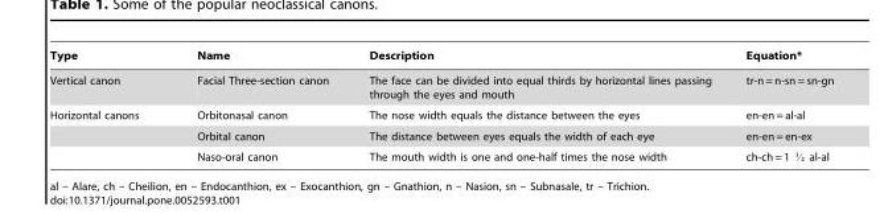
<table><thead><tr><td>Type</td><td>Name</td><td>Description</td><td>Equation*</td></tr></thead><tbody><tr><td>Vertical canon</td><td>Facial Three-section canon</td><td>The face can be divided into equal thirds by horizontal lines passing through the eyes and mouth</td><td>tr-n = n-sn = sn-gn</td></tr><tr><td rowspan="3">Horizontal canons</td><td>Orbitonasal canon</td><td>The nose width equals the distance between the eyes</td><td>en-en = al-al</td></tr><tr><td>Orbital canon</td><td>The distance between eyes equals the width of each eye</td><td>en-en = en-ex</td></tr><tr><td>Naso-oral canon</td><td>The mouth width is one and one-half times the nose width</td><td>ch-ch = 1 K al-al</td></tr></tbody></table>